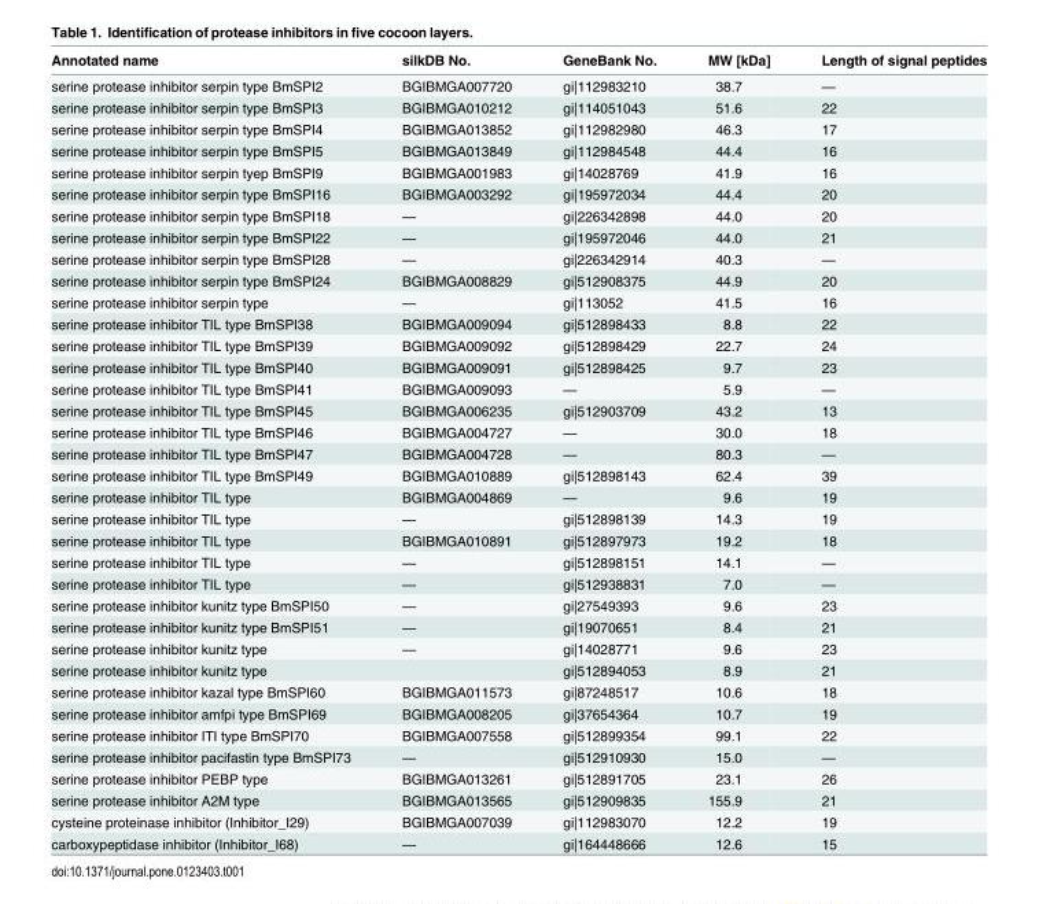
<table><thead><tr><td>Annotated name</td><td>silkDB No.</td><td>GeneBank No.</td><td>MW [kDa]</td><td>Length of signal peptides</td></tr></thead><tbody><tr><td>serine protease inhibitor serpin type BmSPI2</td><td>BGIBMGA007720</td><td>gi|112983210</td><td>38.7</td><td>—</td></tr><tr><td>serine protease inhibitor serpin type BmSPI3</td><td>BGIBMGA010212</td><td>gi|114051043</td><td>51.6</td><td>22</td></tr><tr><td>serine protease inhibitor serpin type BmSPI4</td><td>BGIBMGA013852</td><td>gi|112982980</td><td>46.3</td><td>17</td></tr><tr><td>serine protease inhibitor serpin type BmSPI5</td><td>BGIBMGA013849</td><td>gi|112984548</td><td>44.4</td><td>16</td></tr><tr><td>serine protease inhibitor serpin tyep BmSPI9</td><td>BGIBMGA001983</td><td>gi|14028769</td><td>41.9</td><td>16</td></tr><tr><td>serine protease inhibitor serpin type BmSPI16</td><td>BGIBMGA003292</td><td>gi|195972034</td><td>44.4</td><td>20</td></tr><tr><td>serine protease inhibitor serpin type BmSPI18</td><td>—</td><td>gi|226342898</td><td>44.0</td><td>20</td></tr><tr><td>serine protease inhibitor serpin type BmSPI22</td><td>—</td><td>gi|195972046</td><td>44.0</td><td>21</td></tr><tr><td>serine protease inhibitor serpin type BmSPI28</td><td>—</td><td>gi|226342914</td><td>40.3</td><td>—</td></tr><tr><td>serine protease inhibitor serpin type BmSPI24</td><td>BGIBMGA008829</td><td>gi|512908375</td><td>44.9</td><td>20</td></tr><tr><td>serine protease inhibitor serpin type</td><td>—</td><td>gi|113052</td><td>41.5</td><td>16</td></tr><tr><td>serine protease inhibitor TIL type BmSPI38</td><td>BGIBMGA009094</td><td>gi|512898433</td><td>8.8</td><td>22</td></tr><tr><td>serine protease inhibitor TIL type BmSPI39</td><td>BGIBMGA009092</td><td>gi|512898429</td><td>22.7</td><td>24</td></tr><tr><td>serine protease inhibitor TIL type BmSPI40</td><td>BGIBMGA009091</td><td>gi|512898425</td><td>9.7</td><td>23</td></tr><tr><td>serine protease inhibitor TIL type BmSPI41</td><td>BGIBMGA009093</td><td>—</td><td>5.9</td><td>—</td></tr><tr><td>serine protease inhibitor TIL type BmSPI45</td><td>BGIBMGA006235</td><td>gi|512903709</td><td>43.2</td><td>13</td></tr><tr><td>serine protease inhibitor TIL type BmSPI46</td><td>BGIBMGA004727</td><td>—</td><td>30.0</td><td>18</td></tr><tr><td>serine protease inhibitor TIL type BmSPI47</td><td>BGIBMGA004728</td><td>—</td><td>80.3</td><td>—</td></tr><tr><td>serine protease inhibitor TIL type BmSPI49</td><td>BGIBMGA010889</td><td>gi|512898143</td><td>62.4</td><td>39</td></tr><tr><td>serine protease inhibitor TIL type</td><td>BGIBMGA004869</td><td>—</td><td>9.6</td><td>19</td></tr><tr><td>serine protease inhibitor TIL type</td><td>—</td><td>gi|512898139</td><td>14.3</td><td>19</td></tr><tr><td>serine protease inhibitor TIL type</td><td>BGIBMGA010891</td><td>gi|512897973</td><td>19.2</td><td>18</td></tr><tr><td>serine protease inhibitor TIL type</td><td>—</td><td>gi|512898151</td><td>14.1</td><td>—</td></tr><tr><td>serine protease inhibitor TIL type</td><td>—</td><td>gi|512938831</td><td>7.0</td><td>—</td></tr><tr><td>serine protease inhibitor kunitz type BmSPI50</td><td>—</td><td>gi|27549393</td><td>9.6</td><td>23</td></tr><tr><td>serine protease inhibitor kunitz type BmSPI51</td><td>—</td><td>gi|19070651</td><td>8.4</td><td>21</td></tr><tr><td>serine protease inhibitor kunitz type</td><td>—</td><td>gi|14028771</td><td>9.6</td><td>23</td></tr><tr><td>serine protease inhibitor kunitz type</td><td></td><td>gi|512894053</td><td>8.9</td><td>21</td></tr><tr><td>serine protease inhibitor kazal type BmSPI60</td><td>BGIBMGA011573</td><td>gi|87248517</td><td>10.6</td><td>18</td></tr><tr><td>serine protease inhibitor amfpi type BmSPI69</td><td>BGIBMGA008205</td><td>gi|37654364</td><td>10.7</td><td>19</td></tr><tr><td>serine protease inhibitor ITI type BmSPI70</td><td>BGIBMGA007558</td><td>gi|512899354</td><td>99.1</td><td>22</td></tr><tr><td>serine protease inhibitor pacifastin type BmSPI73</td><td>—</td><td>gi|512910930</td><td>15.0</td><td>—</td></tr><tr><td>serine protease inhibitor PEBP type</td><td>BGIBMGA013261</td><td>gi|512891705</td><td>23.1</td><td>26</td></tr><tr><td>serine protease inhibitor A2M type</td><td>BGIBMGA013565</td><td>gi|512909835</td><td>155.9</td><td>21</td></tr><tr><td>cysteine proteinase inhibitor (Inhibitor_I29)</td><td>BGIBMGA007039</td><td>gi|112983070</td><td>12.2</td><td>19</td></tr><tr><td>carboxypeptidase inhibitor (Inhibitor_I68)</td><td>—</td><td>gi|164448666</td><td>12.6</td><td>15</td></tr></tbody></table>